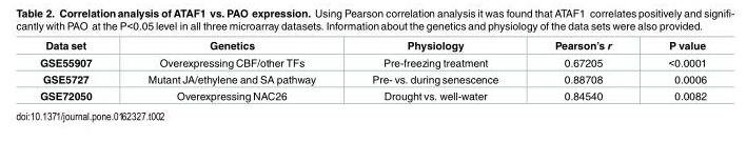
<table><thead><tr><td>Data set</td><td>Genetics</td><td>Physiology</td><td>Pearson’s r</td><td>P value</td></tr></thead><tbody><tr><td>GSE55907</td><td>Overexpressing CBF/other TFs</td><td>Pre-freezing treatment</td><td>0.67205</td><td>&lt;0.0001</td></tr><tr><td>GSE5727</td><td>Mutant JA/ethylene and SA pathway</td><td>Pre- vs. during senescence</td><td>0.88708</td><td>0.0006</td></tr><tr><td>GSE72050</td><td>Overexpressing NAC26</td><td>Drought vs. well-water</td><td>0.84540</td><td>0.0082</td></tr></tbody></table>